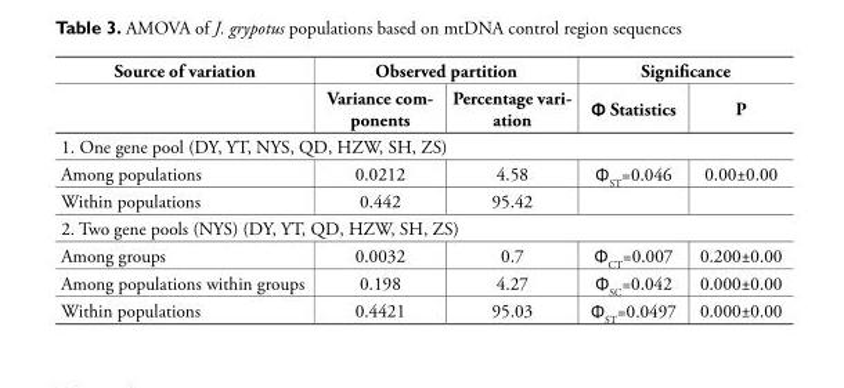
<table><thead><tr><td rowspan="2">Source of variation</td><td colspan="2">Observed partition</td><td colspan="2">Significance</td></tr><tr><td>Variance com- ponents</td><td>Percentage vari- ation</td><td>Φ Statistics</td><td>P</td></tr></thead><tbody><tr><td colspan="5">1. One gene pool (DY, YT, NYS, QD, HZW, SH, ZS)</td></tr><tr><td>Among populations</td><td>0.0212</td><td>4.58</td><td>Φ<sub>ST</sub>=0.046</td><td>0.00±0.00</td></tr><tr><td>Within populations</td><td>0.442</td><td>95.42</td><td></td><td></td></tr><tr><td colspan="5">2. Two gene pools (NYS) (DY, YT, QD, HZW, SH, ZS)</td></tr><tr><td>Among groups</td><td>0.0032</td><td>0.7</td><td>Φ<sub>CT</sub>=0.007</td><td>0.200±0.00</td></tr><tr><td>Among populations within groups</td><td>0.198</td><td>4.27</td><td>Φ<sub>SC</sub>=0.042</td><td>0.000±0.00</td></tr><tr><td>Within populations</td><td>0.4421</td><td>95.03</td><td>Φ<sub>ST</sub>=0.0497</td><td>0.000±0.00</td></tr></tbody></table>